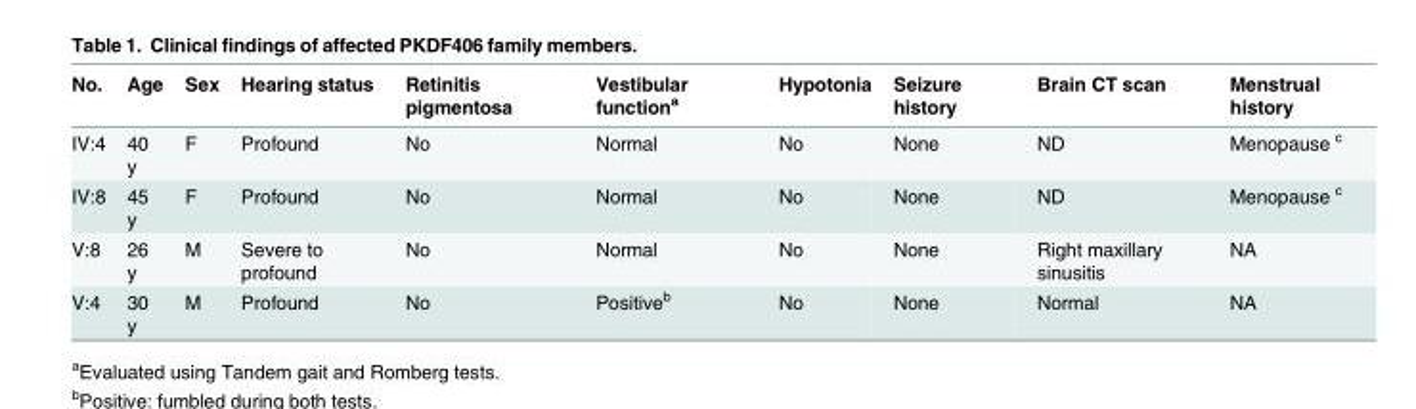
<table><thead><tr><td>No.</td><td>Age</td><td>Sex</td><td>Hearing status</td><td>Retinitis pigmentosa</td><td>Vestibular function<sup>a</sup></td><td>Hypotonia</td><td>Seizure history</td><td>Brain CT scan</td><td>Menstrual history</td></tr></thead><tbody><tr><td>IV:4</td><td>40 y</td><td>F</td><td>Profound</td><td>No</td><td>Normal</td><td>No</td><td>None</td><td>ND</td><td>Menopause <sup>c</sup></td></tr><tr><td>IV:8</td><td>45 y</td><td>F</td><td>Profound</td><td>No</td><td>Normal</td><td>No</td><td>None</td><td>ND</td><td>Menopause <sup>c</sup></td></tr><tr><td>V:8</td><td>26 y</td><td>M</td><td>Severe to profound</td><td>No</td><td>Normal</td><td>No</td><td>None</td><td>Right maxillary sinusitis</td><td>NA</td></tr><tr><td>V:4</td><td>30 y</td><td>M</td><td>Profound</td><td>No</td><td>Positive<sup>b</sup></td><td>No</td><td>None</td><td>Normal</td><td>NA</td></tr></tbody></table>